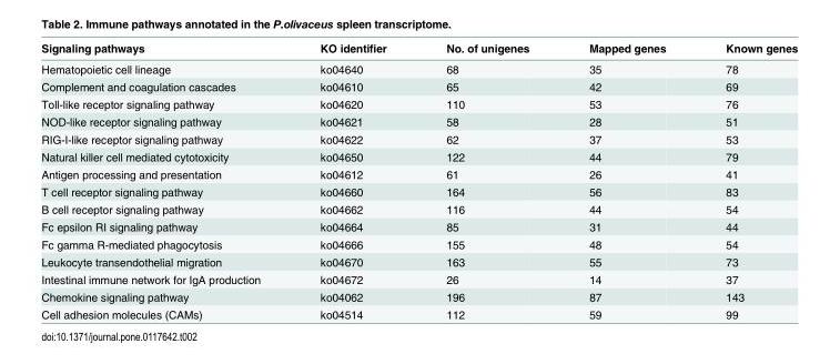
<table><thead><tr><td>Signaling pathways</td><td>KO identifier</td><td>No. of unigenes</td><td>Mapped genes</td><td>Known genes</td></tr></thead><tbody><tr><td>Hematopoietic cell lineage</td><td>ko04640</td><td>68</td><td>35</td><td>78</td></tr><tr><td>Complement and coagulation cascades</td><td>ko04610</td><td>65</td><td>42</td><td>69</td></tr><tr><td>Toll-like receptor signaling pathway</td><td>ko04620</td><td>110</td><td>53</td><td>76</td></tr><tr><td>NOD-like receptor signaling pathway</td><td>ko04621</td><td>58</td><td>28</td><td>51</td></tr><tr><td>RIG-I-like receptor signaling pathway</td><td>ko04622</td><td>62</td><td>37</td><td>53</td></tr><tr><td>Natural killer cell mediated cytotoxicity</td><td>ko04650</td><td>122</td><td>44</td><td>79</td></tr><tr><td>Antigen processing and presentation</td><td>ko04612</td><td>61</td><td>26</td><td>41</td></tr><tr><td>T cell receptor signaling pathway</td><td>ko04660</td><td>164</td><td>56</td><td>83</td></tr><tr><td>B cell receptor signaling pathway</td><td>ko04662</td><td>116</td><td>44</td><td>54</td></tr><tr><td>Fc epsilon RI signaling pathway</td><td>ko04664</td><td>85</td><td>31</td><td>44</td></tr><tr><td>Fc gamma R-mediated phagocytosis</td><td>ko04666</td><td>155</td><td>48</td><td>54</td></tr><tr><td>Leukocyte transendothelial migration</td><td>ko04670</td><td>163</td><td>55</td><td>73</td></tr><tr><td>Intestinal immune network for IgA production</td><td>ko04672</td><td>26</td><td>14</td><td>37</td></tr><tr><td>Chemokine signaling pathway</td><td>ko04062</td><td>196</td><td>87</td><td>143</td></tr><tr><td>Cell adhesion molecules (CAMs)</td><td>ko04514</td><td>112</td><td>59</td><td>99</td></tr></tbody></table>